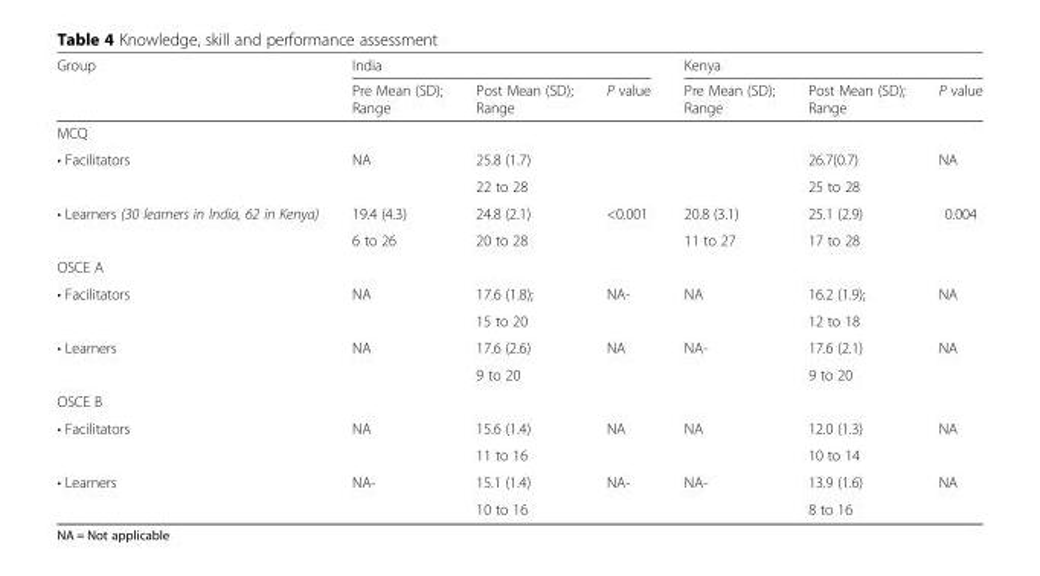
<table><thead><tr><td rowspan="2">Group</td><td colspan="3">India</td><td colspan="3">Kenya</td></tr><tr><td>Pre Mean (SD); Range</td><td>Post Mean (SD); Range</td><td>P value</td><td>Pre Mean (SD); Range</td><td>Post Mean (SD); Range</td><td>P value</td></tr></thead><tbody><tr><td colspan="7">MCQ</td></tr><tr><td rowspan="2">• Facilitators</td><td rowspan="2">NA</td><td>25.8 (1.7)</td><td rowspan="2"></td><td rowspan="2"></td><td>26.7(0.7)</td><td rowspan="2">NA</td></tr><tr><td>22 to 28</td><td>25 to 28</td></tr><tr><td rowspan="2">• Learners (30 learners in India, 62 in Kenya)</td><td>19.4 (4.3)</td><td>24.8 (2.1)</td><td rowspan="2">&lt;0.001</td><td>20.8 (3.1)</td><td>25.1 (2.9)</td><td rowspan="2">0.004</td></tr><tr><td>6 to 26</td><td>20 to 28</td><td>11 to 27</td><td>17 to 28</td></tr><tr><td colspan="7">OSCE A</td></tr><tr><td rowspan="2">• Facilitators</td><td rowspan="2">NA</td><td>17.6 (1.8);</td><td rowspan="2">NA-</td><td rowspan="2">NA</td><td>16.2 (1.9);</td><td rowspan="2">NA</td></tr><tr><td>15 to 20</td><td>12 to 18</td></tr><tr><td rowspan="2">• Learners</td><td rowspan="2">NA</td><td>17.6 (2.6)</td><td rowspan="2">NA</td><td rowspan="2">NA-</td><td>17.6 (2.1)</td><td rowspan="2">NA</td></tr><tr><td>9 to 20</td><td>9 to 20</td></tr><tr><td colspan="7">OSCE B</td></tr><tr><td rowspan="2">• Facilitators</td><td rowspan="2">NA</td><td>15.6 (1.4)</td><td rowspan="2">NA</td><td rowspan="2">NA</td><td>12.0 (1.3)</td><td rowspan="2">NA</td></tr><tr><td>11 to 16</td><td>10 to 14</td></tr><tr><td rowspan="2">• Learners</td><td rowspan="2">NA-</td><td>15.1 (1.4)</td><td rowspan="2">NA-</td><td rowspan="2">NA-</td><td>13.9 (1.6)</td><td rowspan="2">NA</td></tr><tr><td>10 to 16</td><td>8 to 16</td></tr></tbody></table>